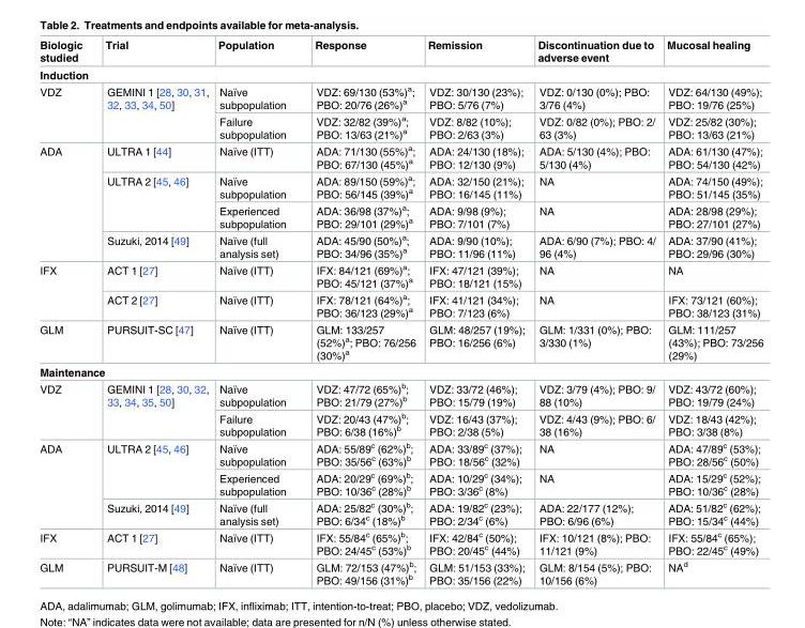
<table><thead><tr><td>Biologic studied</td><td>Trial</td><td>Population</td><td>Response</td><td>Remission</td><td>Discontinuation due to adverse event</td><td>Mucosal healing</td></tr></thead><tbody><tr><td colspan="7">Induction</td></tr><tr><td rowspan="2">VDZ</td><td rowspan="2">GEMINI 1 [28, 30, 31, 32, 33, 34, 50]</td><td>Naïve subpopulation</td><td>VDZ: 69/130 (53%)<sup>a</sup>; PBO: 20/76 (26%)<sup>a</sup></td><td>VDZ: 30/130 (23%); PBO: 5/76 (7%)</td><td>VDZ: 0/130 (0%); PBO: 3/76 (4%)</td><td>VDZ: 64/130 (49%); PBO: 19/76 (25%)</td></tr><tr><td>Failure subpopulation</td><td>VDZ: 32/82 (39%)<sup>a</sup>; PBO: 13/63 (21%)<sup>a</sup></td><td>VDZ: 8/82 (10%); PBO: 2/63 (3%)</td><td>VDZ: 0/82 (0%); PBO: 2/ 63 (3%)</td><td>VDZ: 25/82 (30%); PBO: 13/63 (21%)</td></tr><tr><td rowspan="4">ADA</td><td>ULTRA 1 [44]</td><td>Naïve (ITT)</td><td>ADA: 71/130 (55%)<sup>a</sup>; PBO: 67/130 (45%)<sup>a</sup></td><td>ADA: 24/130 (18%); PBO: 12/130 (9%)</td><td>ADA: 5/130 (4%); PBO: 5/130 (4%)</td><td>ADA: 61/130 (47%); PBO: 54/130 (42%)</td></tr><tr><td rowspan="2">ULTRA 2 [45, 46]</td><td>Naïve subpopulation</td><td>ADA: 89/150 (59%)<sup>a</sup>; PBO: 56/145 (39%)<sup>a</sup></td><td>ADA: 32/150 (21%); PBO: 16/145 (11%)</td><td>NA</td><td>ADA: 74/150 (49%); PBO: 51/145 (35%)</td></tr><tr><td>Experienced subpopulation</td><td>ADA: 36/98 (37%)<sup>a</sup>; PBO: 29/101 (29%)<sup>a</sup></td><td>ADA: 9/98 (9%); PBO: 7/101 (7%)</td><td>NA</td><td>ADA: 28/98 (29%); PBO: 27/101 (27%)</td></tr><tr><td>Suzuki, 2014 [49]</td><td>Naïve (full analysis set)</td><td>ADA: 45/90 (50%)<sup>a</sup>; PBO: 34/96 (35%)<sup>a</sup></td><td>ADA: 9/90 (10%); PBO: 11/96 (11%)</td><td>ADA: 6/90 (7%); PBO: 4/ 96 (4%)</td><td>ADA: 37/90 (41%); PBO: 29/96 (30%)</td></tr><tr><td rowspan="2">IFX</td><td>ACT 1 [27]</td><td>Naïve (ITT)</td><td>IFX: 84/121 (69%)<sup>a</sup>; PBO: 45/121 (37%)<sup>a</sup></td><td>IFX: 47/121 (39%); PBO: 18/121 (15%)</td><td>NA</td><td>NA</td></tr><tr><td>ACT 2 [27]</td><td>Naïve (ITT)</td><td>IFX: 78/121 (64%)<sup>a</sup>; PBO: 36/123 (29%)<sup>a</sup></td><td>IFX: 41/121 (34%); PBO: 7/123 (6%)</td><td>NA</td><td>IFX: 73/121 (60%); PBO: 38/123 (31%)</td></tr><tr><td>GLM</td><td>PURSUIT-SC [47]</td><td>Naïve (ITT)</td><td>GLM: 133/257 (52%)<sup>a</sup>; PBO: 76/256 (30%)<sup>a</sup></td><td>GLM: 48/257 (19%); PBO: 16/256 (6%)</td><td>GLM: 1/331 (0%); PBO: 3/330 (1%)</td><td>GLM: 111/257 (43%); PBO: 73/256 (29%)</td></tr><tr><td colspan="7">Maintenance</td></tr><tr><td rowspan="2">VDZ</td><td rowspan="2">GEMINI 1 [28, 30, 32, 33, 34, 35, 50]</td><td>Naïve subpopulation</td><td>VDZ: 47/72 (65%)<sup>b</sup>; PBO: 21/79 (27%)<sup>b</sup></td><td>VDZ: 33/72 (46%); PBO: 15/79 (19%)</td><td>VDZ: 3/79 (4%); PBO: 9/ 88 (10%)</td><td>VDZ: 43/72 (60%); PBO: 19/79 (24%)</td></tr><tr><td>Failure subpopulation</td><td>VDZ: 20/43 (47%)<sup>b</sup>; PBO: 6/38 (16%)<sup>b</sup></td><td>VDZ: 16/43 (37%); PBO: 2/38 (5%)</td><td>VDZ: 4/43 (9%); PBO: 6/ 38 (16%)</td><td>VDZ: 18/43 (42%); PBO: 3/38 (8%)</td></tr><tr><td rowspan="3">ADA</td><td rowspan="2">ULTRA 2 [45, 46]</td><td>Naïve subpopulation</td><td>ADA: 55/89<sup>c</sup> (62%)<sup>b</sup>; PBO: 35/56<sup>c</sup> (63%)<sup>b</sup></td><td>ADA: 33/89<sup>c</sup> (37%); PBO: 18/56<sup>c</sup> (32%)</td><td>NA</td><td>ADA: 47/89<sup>c</sup> (53%); PBO: 28/56<sup>c</sup> (50%)</td></tr><tr><td>Experienced subpopulation</td><td>ADA: 20/29<sup>c</sup> (69%)<sup>b</sup>; PBO: 10/36<sup>c</sup> (28%)<sup>b</sup></td><td>ADA: 10/29<sup>c</sup> (34%); PBO: 3/36<sup>c</sup> (8%)</td><td>NA</td><td>ADA: 15/29<sup>c</sup> (52%); PBO: 10/36<sup>c</sup> (28%)</td></tr><tr><td>Suzuki, 2014 [49]</td><td>Naïve (full analysis set)</td><td>ADA: 25/82<sup>c</sup> (30%)<sup>b</sup>; PBO: 6/34<sup>c</sup> (18%)<sup>b</sup></td><td>ADA: 19/82<sup>c</sup> (23%); PBO: 2/34<sup>c</sup> (6%)</td><td>ADA: 22/177 (12%); PBO: 6/96 (6%)</td><td>ADA: 51/82<sup>c</sup> (62%); PBO: 15/34<sup>c</sup> (44%)</td></tr><tr><td>IFX</td><td>ACT 1 [27]</td><td>Naïve (ITT)</td><td>IFX: 55/84<sup>c</sup> (65%)<sup>b</sup>; PBO: 24/45<sup>c</sup> (53%)<sup>b</sup></td><td>IFX: 42/84<sup>c</sup> (50%); PBO: 20/45<sup>c</sup> (44%)</td><td>IFX: 10/121 (8%); PBO: 11/121 (9%)</td><td>IFX: 55/84<sup>c</sup> (65%); PBO: 22/45<sup>c</sup> (49%)</td></tr><tr><td>GLM</td><td>PURSUIT-M [48]</td><td>Naïve (ITT)</td><td>GLM: 72/153 (47%)<sup>b</sup>; PBO: 49/156 (31%)<sup>b</sup></td><td>GLM: 51/153 (33%); PBO: 35/156 (22%)</td><td>GLM: 8/154 (5%); PBO: 10/156 (6%)</td><td>NA<sup>d</sup></td></tr></tbody></table>